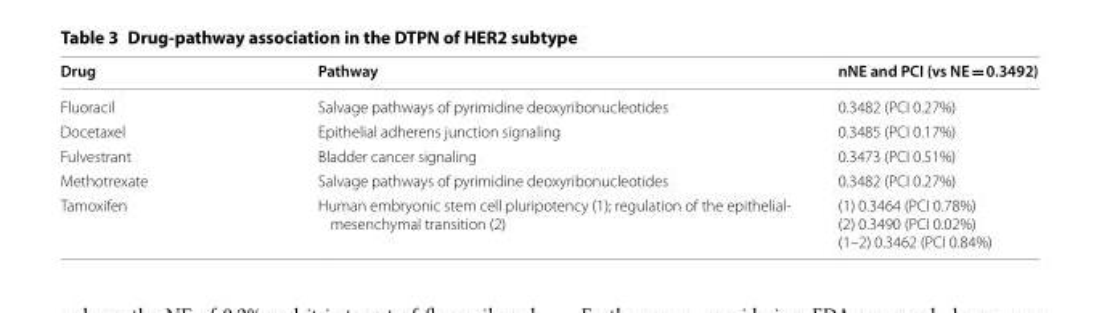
<table><thead><tr><td>Drug</td><td>Pathway</td><td>nNE and PCI (vs NE = 0.3492)</td></tr></thead><tbody><tr><td>Fluoracil</td><td>Salvage pathways of pyrimidine deoxyribonucleotides</td><td>0.3482 (PCI 0.27%)</td></tr><tr><td>Docetaxel</td><td>Epithelial adherens junction signaling</td><td>0.3485 (PCI 0.17%)</td></tr><tr><td>Fulvestrant</td><td>Bladder cancer signaling</td><td>0.3473 (PCI 0.51%)</td></tr><tr><td>Methotrexate</td><td>Salvage pathways of pyrimidine deoxyribonucleotides</td><td>0.3482 (PCI 0.27%)</td></tr><tr><td>Tamoxifen</td><td>Human embryonic stem cell pluripotency (1); regulation of the epithelial- mesenchymal transition (2)</td><td>(1) 0.3464 (PCI 0.78%) (2) 0.3490 (PCI 0.02%) (1–2) 0.3462 (PCI 0.84%)</td></tr></tbody></table>